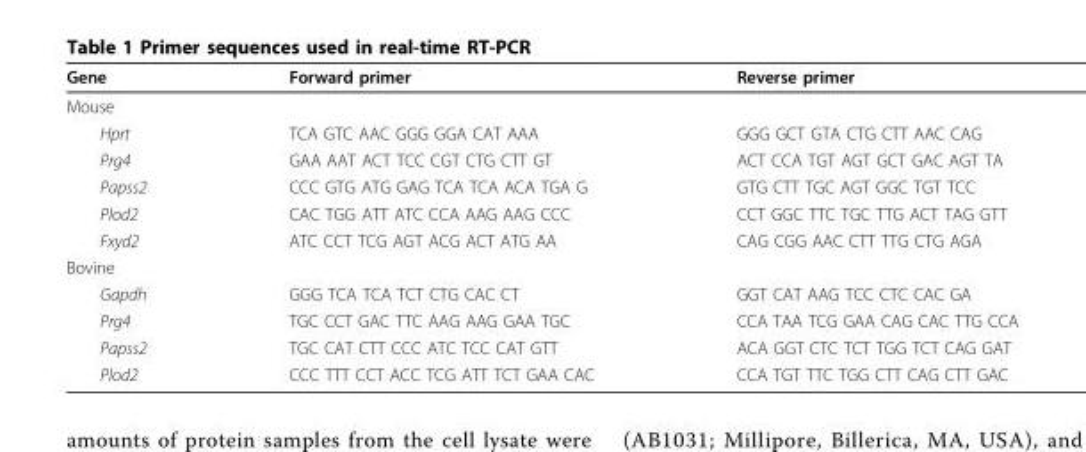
<table><thead><tr><td>Gene</td><td>Forward primer</td><td>Reverse primer</td></tr></thead><tbody><tr><td colspan="3">Mouse</td></tr><tr><td>Hprt</td><td>TCA GTC AAC GGG GGA CAT AAA</td><td>GGG GCT GTA CTG CTT AAC CAG</td></tr><tr><td>Prg4</td><td>GAA AAT ACT TCC CGT CTG CTT GT</td><td>ACT CCA TGT AGT GCT GAC AGT TA</td></tr><tr><td>Papss2</td><td>CCC GTG ATG GAG TCA TCA ACA TGA G</td><td>GTG CTT TGC AGT GGC TGT TCC</td></tr><tr><td>Plod2</td><td>CAC TGG ATT ATC CCA AAG AAG CCC</td><td>CCT GGC TTC TGC TTG ACT TAG GTT</td></tr><tr><td>Fxyd2</td><td>ATC CCT TCG AGT ACG ACT ATG AA</td><td>CAG CGG AAC CTT TTG CTG AGA</td></tr><tr><td colspan="3">Bovine</td></tr><tr><td>Gapdh</td><td>GGG TCA TCA TCT CTG CAC CT</td><td>GGT CAT AAG TCC CTC CAC GA</td></tr><tr><td>Prg4</td><td>TGC CCT GAC TTC AAG AAG GAA TGC</td><td>CCA TAA TCG GAA CAG CAC TTG CCA</td></tr><tr><td>Papss2</td><td>TGC CAT CTT CCC ATC TCC CAT GTT</td><td>ACA GGT CTC TCT TGG TCT CAG GAT</td></tr><tr><td>Plod2</td><td>CCC TTT CCT ACC TCG ATT TCT GAA CAC</td><td>CCA TGT TTC TGG CTT CAG CTT GAC</td></tr></tbody></table>